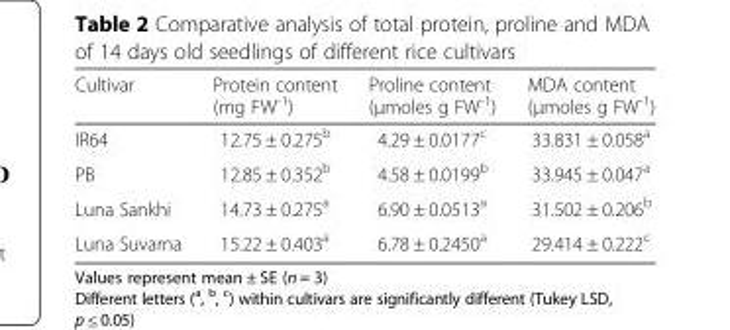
<table><thead><tr><td>Cultivar</td><td>Protein content (mg FW<sup>-1</sup>)</td><td>Proline content (μmoles g FW<sup>-1</sup>)</td><td>MDA content (μmoles g FW<sup>-1</sup>)</td></tr></thead><tbody><tr><td>IR64</td><td>12.75 ± 0.275<sup>b</sup></td><td>4.29 ± 0.0177<sup>c</sup></td><td>33.831 ± 0.058<sup>a</sup></td></tr><tr><td>PB</td><td>12.85 ± 0.352<sup>b</sup></td><td>4.58 ± 0.0199<sup>b</sup></td><td>33.945 ± 0.047<sup>a</sup></td></tr><tr><td>Luna Sankhi</td><td>14.73 ± 0.275<sup>a</sup></td><td>6.90 ± 0.0513<sup>a</sup></td><td>31.502 ± 0.206<sup>b</sup></td></tr><tr><td>Luna Suvarna</td><td>15.22 ± 0.403<sup>a</sup></td><td>6.78 ± 0.2450<sup>a</sup></td><td>29.414 ± 0.222<sup>c</sup></td></tr></tbody></table>